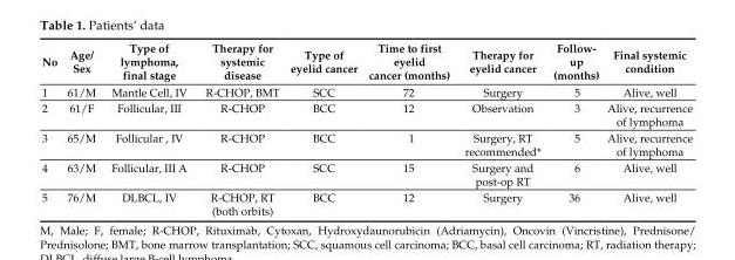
<table><thead><tr><td>No</td><td>Age/ Sex</td><td>Type of lymphoma, final stage</td><td>Therapy for systemic disease</td><td>Type of eyelid cancer</td><td>Time to first eyelid cancer (months)</td><td>Therapy for eyelid cancer</td><td>Follow- up (months)</td><td>Final systemic condition</td></tr></thead><tbody><tr><td>1</td><td>61/M</td><td>Mantle Cell, IV</td><td>R-CHOP, BMT</td><td>SCC</td><td>72</td><td>Surgery</td><td>5</td><td>Alive, well</td></tr><tr><td>2</td><td>61/F</td><td>Follicular, III</td><td>R-CHOP</td><td>BCC</td><td>12</td><td>Observation</td><td>3</td><td>Alive, recurrence of lymphoma</td></tr><tr><td>3</td><td>65/M</td><td>Follicular , IV</td><td>R-CHOP</td><td>BCC</td><td>1</td><td>Surgery, RT recommended*</td><td>5</td><td>Alive, recurrence of lymphoma</td></tr><tr><td>4</td><td>63/M</td><td>Follicular, III A</td><td>R-CHOP</td><td>SCC</td><td>15</td><td>Surgery and post-op RT</td><td>6</td><td>Alive, well</td></tr><tr><td>5</td><td>76/M</td><td>DLBCL, IV</td><td>R-CHOP, RT (both orbits)</td><td>BCC</td><td>12</td><td>Surgery</td><td>36</td><td>Alive, well</td></tr></tbody></table>